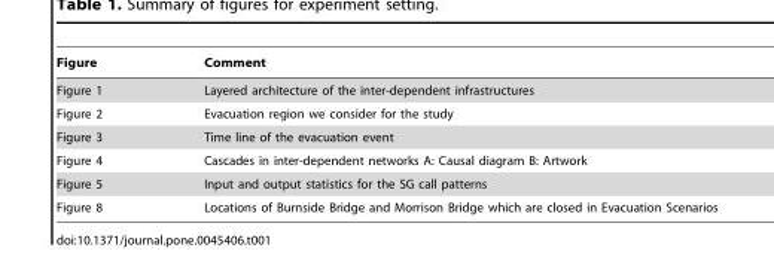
<table><thead><tr><td>Figure</td><td>Comment</td></tr></thead><tbody><tr><td>Figure 1</td><td>Layered architecture of the inter-dependent infrastructures</td></tr><tr><td>Figure 2</td><td>Evacuation region we consider for the study</td></tr><tr><td>Figure 3</td><td>Time line of the evacuation event</td></tr><tr><td>Figure 4</td><td>Cascades in inter-dependent networks A: Causal diagram B: Artwork</td></tr><tr><td>Figure 5</td><td>Input and output statistics for the SG call patterns</td></tr><tr><td>Figure 8</td><td>Locations of Burnside Bridge and Morrison Bridge which are closed in Evacuation Scenarios</td></tr></tbody></table>